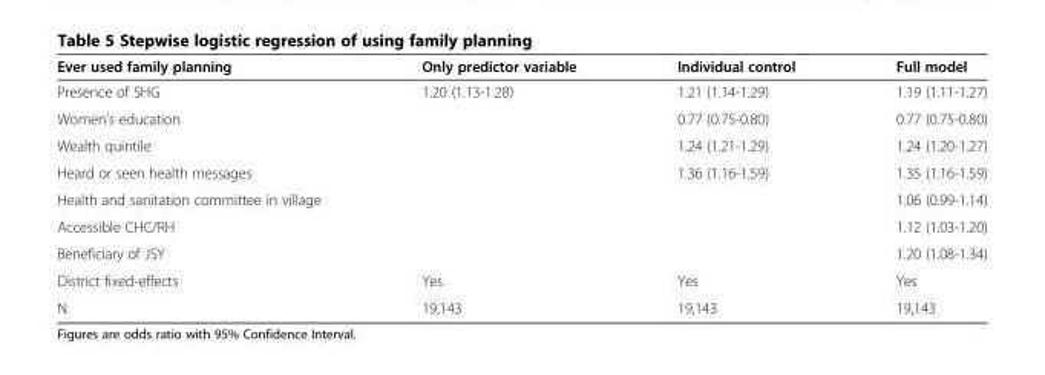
<table><thead><tr><td>Ever used family planning</td><td>Only predictor variable</td><td>Individual control</td><td>Full model</td></tr></thead><tbody><tr><td>Presence of SHG</td><td>1.20 (1.13-1.28)</td><td>1.21 (1.14-1.29)</td><td>1.19 (1.11-1.27)</td></tr><tr><td>Women’s education</td><td></td><td>0.77 (0.75-0.80)</td><td>0.77 (0.75-0.80)</td></tr><tr><td>Wealth quintile</td><td></td><td>1.24 (1.21-1.29)</td><td>1.24 (1.20-1.27)</td></tr><tr><td>Heard or seen health messages</td><td></td><td>1.36 (1.16-1.59)</td><td>1.35 (1.16-1.59)</td></tr><tr><td>Health and sanitation committee in village</td><td></td><td></td><td>1.06 (0.99-1.14)</td></tr><tr><td>Accessible CHC/RH</td><td></td><td></td><td>1.12 (1.03-1.20)</td></tr><tr><td>Beneficiary of JSY</td><td></td><td></td><td>1.20 (1.08-1.34)</td></tr><tr><td>District fixed-effects</td><td>Yes</td><td>Yes</td><td>Yes</td></tr><tr><td>N</td><td>19,143</td><td>19,143</td><td>19,143</td></tr></tbody></table>